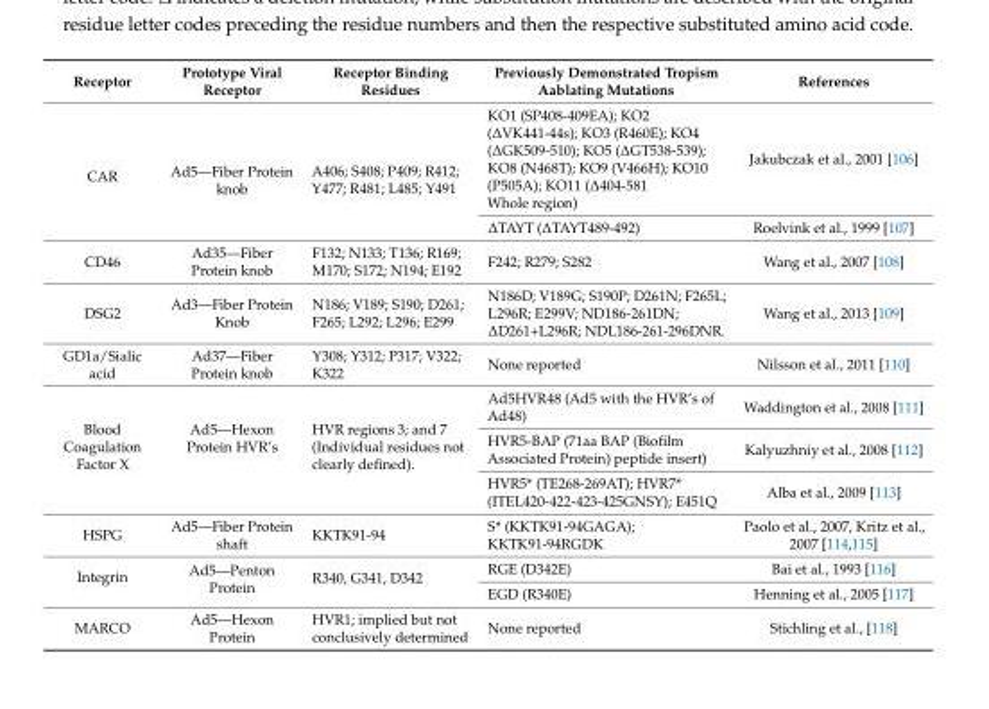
<table><thead><tr><td>Receptor</td><td>Prototype Viral Receptor</td><td>Receptor Binding Residues</td><td>Previously Demonstrated Tropism Aablating Mutations</td><td>References</td></tr></thead><tbody><tr><td rowspan="2">CAR</td><td rowspan="2">Ad5—Fiber Protein knob</td><td rowspan="2">A406; S408; P409; R412; Y477; R481; L485; Y491</td><td>KO1 (SP408-409EA); KO2 (∆VK441-44s); KO3 (R460E); KO4 (∆GK509-510); KO5 (∆GT538-539); KO8 (N468T); KO9 (V466H); KO10 (P505A); KO11 (∆404-581 Whole region)</td><td>Jakubczak et al., 2001 [106]</td></tr><tr><td>∆TAYT (∆TAYT489-492)</td><td>Roelvink et al., 1999 [107]</td></tr><tr><td>CD46</td><td>Ad35—Fiber Protein knob</td><td>F132; N133; T136; R169; M170; S172; N194; E192</td><td>F242; R279; S282</td><td>Wang et al., 2007 [108]</td></tr><tr><td>DSG2</td><td>Ad3—Fiber Protein Knob</td><td>N186; V189; S190; D261; F265; L292; L296; E299</td><td>N186D; V189G; S190P; D261N; F265L; L296R; E299V; ND186-261DN; ∆D261+L296R; NDL186-261-296DNR.</td><td>Wang et al., 2013 [109]</td></tr><tr><td>GD1a/Sialic acid</td><td>Ad37—Fiber Protein knob</td><td>Y308; Y312; P317; V322; K322</td><td>None reported</td><td>Nilsson et al., 2011 [110]</td></tr><tr><td rowspan="3">Blood Coagulation Factor X</td><td rowspan="3">Ad5—Hexon Protein HVR’s</td><td rowspan="3">HVR regions 3; and 7 (Individual residues not clearly defined).</td><td>Ad5HVR48 (Ad5 with the HVR’s of Ad48)</td><td>Waddington et al., 2008 [111]</td></tr><tr><td>HVR5-BAP (71aa BAP (Biofilm Associated Protein) peptide insert)</td><td>Kalyuzhniy et al., 2008 [112]</td></tr><tr><td>HVR5* (TE268-269AT); HVR7* (ITEL420-422-423-425GNSY); E451Q</td><td>Alba et al., 2009 [113]</td></tr><tr><td>HSPG</td><td>Ad5—Fiber Protein shaft</td><td>KKTK91-94</td><td>S* (KKTK91-94GAGA); KKTK91-94RGDK</td><td>Paolo et al., 2007, Kritz et al., 2007 [114,115]</td></tr><tr><td rowspan="2">Integrin</td><td rowspan="2">Ad5—Penton Protein</td><td rowspan="2">R340, G341, D342</td><td>RGE (D342E)</td><td>Bai et al., 1993 [116]</td></tr><tr><td>EGD (R340E)</td><td>Henning et al., 2005 [117]</td></tr><tr><td>MARCO</td><td>Ad5—Hexon Protein</td><td>HVR1; implied but not conclusively determined</td><td>None reported</td><td>Stichling et al., [118]</td></tr></tbody></table>